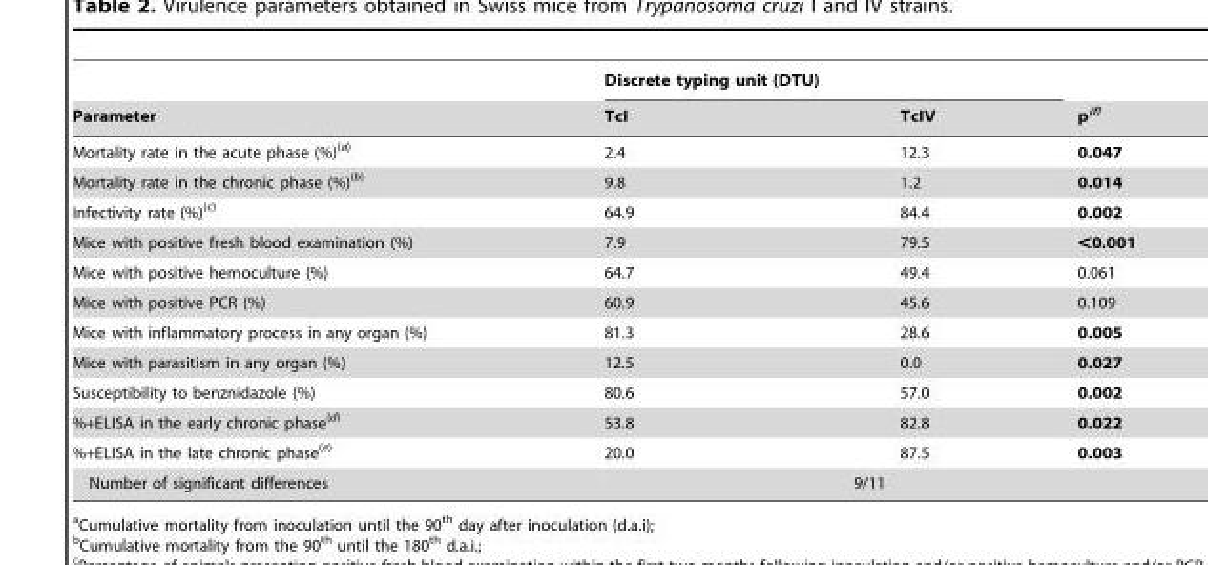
<table><thead><tr><td rowspan="2">Parameter</td><td colspan="2">Discrete typing unit (DTU)</td><td rowspan="2">p(f)</td></tr><tr><td>TcI</td><td>TcIV</td></tr></thead><tbody><tr><td>Mortality rate in the acute phase (%)(a)</td><td>2.4</td><td>12.3</td><td>0.047</td></tr><tr><td>Mortality rate in the chronic phase (%)(b)</td><td>9.8</td><td>1.2</td><td>0.014</td></tr><tr><td>Infectivity rate (%)(c)</td><td>64.9</td><td>84.4</td><td>0.002</td></tr><tr><td>Mice with positive fresh blood examination (%)</td><td>7.9</td><td>79.5</td><td>&lt;0.001</td></tr><tr><td>Mice with positive hemoculture (%)</td><td>64.7</td><td>49.4</td><td>0.061</td></tr><tr><td>Mice with positive PCR (%)</td><td>60.9</td><td>45.6</td><td>0.109</td></tr><tr><td>Mice with inflammatory process in any organ (%)</td><td>81.3</td><td>28.6</td><td>0.005</td></tr><tr><td>Mice with parasitism in any organ (%)</td><td>12.5</td><td>0.0</td><td>0.027</td></tr><tr><td>Susceptibility to benznidazole (%)</td><td>80.6</td><td>57.0</td><td>0.002</td></tr><tr><td>%+ELISA in the early chronic phase(d)</td><td>53.8</td><td>82.8</td><td>0.022</td></tr><tr><td>%+ELISA in the late chronic phase(e)</td><td>20.0</td><td>87.5</td><td>0.003</td></tr><tr><td>Number of significant differences</td><td colspan="3">9/11</td></tr></tbody></table>